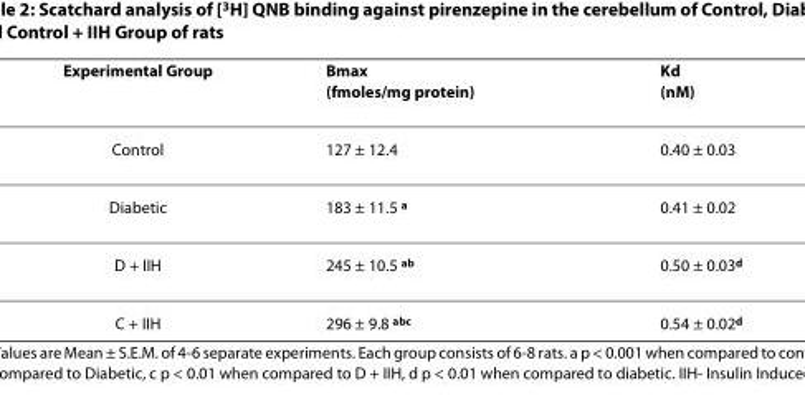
<table><thead><tr><td>Experimental Group</td><td>Bmax (fmoles/mg protein)</td><td>Kd (nM)</td></tr></thead><tbody><tr><td>Control</td><td>127 ± 12.4</td><td>0.40 ± 0.03</td></tr><tr><td>Diabetic</td><td>183 ± 11.5 <sup>a</sup></td><td>0.41 ± 0.02</td></tr><tr><td>D + IIH</td><td>245 ± 10.5 <sup>ab</sup></td><td>0.50 ± 0.03<sup>d</sup></td></tr><tr><td>C + IIH</td><td>296 ± 9.8 <sup>abc</sup></td><td>0.54 ± 0.02<sup>d</sup></td></tr></tbody></table>